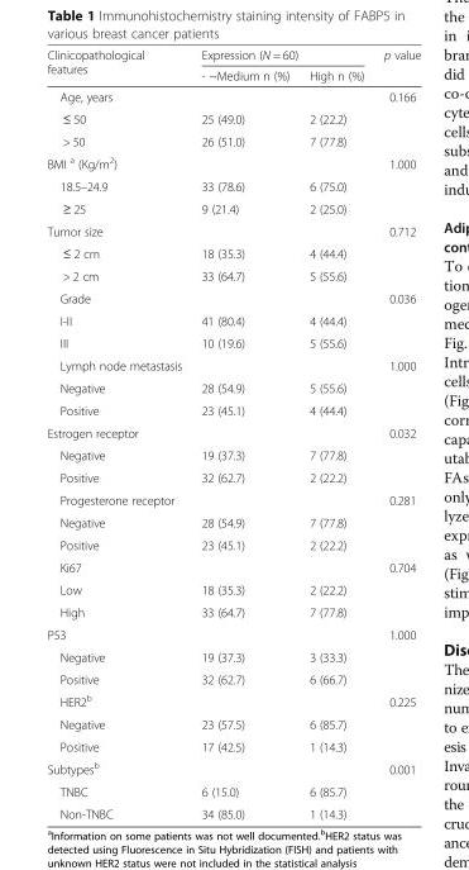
<table><thead><tr><td rowspan="2">Clinicopathological features</td><td colspan="2">Expression (N = 60)</td><td rowspan="2">p value</td></tr><tr><td>- ~Medium n (%)</td><td>High n (%)</td></tr></thead><tbody><tr><td>Age, years</td><td></td><td></td><td>0.166</td></tr><tr><td>≤ 50</td><td>25 (49.0)</td><td>2 (22.2)</td><td></td></tr><tr><td>&gt; 50</td><td>26 (51.0)</td><td>7 (77.8)</td><td></td></tr><tr><td>BMI <sup>a</sup> (Kg/m<sup>2</sup>)</td><td></td><td></td><td>1.000</td></tr><tr><td>18.5–24.9</td><td>33 (78.6)</td><td>6 (75.0)</td><td></td></tr><tr><td>≥ 25</td><td>9 (21.4)</td><td>2 (25.0)</td><td></td></tr><tr><td>Tumor size</td><td></td><td></td><td>0.712</td></tr><tr><td>≤ 2 cm</td><td>18 (35.3)</td><td>4 (44.4)</td><td></td></tr><tr><td>&gt; 2 cm</td><td>33 (64.7)</td><td>5 (55.6)</td><td></td></tr><tr><td>Grade</td><td></td><td></td><td>0.036</td></tr><tr><td>I-II</td><td>41 (80.4)</td><td>4 (44.4)</td><td></td></tr><tr><td>III</td><td>10 (19.6)</td><td>5 (55.6)</td><td></td></tr><tr><td>Lymph node metastasis</td><td></td><td></td><td>1.000</td></tr><tr><td>Negative</td><td>28 (54.9)</td><td>5 (55.6)</td><td></td></tr><tr><td>Positive</td><td>23 (45.1)</td><td>4 (44.4)</td><td></td></tr><tr><td>Estrogen receptor</td><td></td><td></td><td>0.032</td></tr><tr><td>Negative</td><td>19 (37.3)</td><td>7 (77.8)</td><td></td></tr><tr><td>Positive</td><td>32 (62.7)</td><td>2 (22.2)</td><td></td></tr><tr><td>Progesterone receptor</td><td></td><td></td><td>0.281</td></tr><tr><td>Negative</td><td>28 (54.9)</td><td>7 (77.8)</td><td></td></tr><tr><td>Positive</td><td>23 (45.1)</td><td>2 (22.2)</td><td></td></tr><tr><td>Ki67</td><td></td><td></td><td>0.704</td></tr><tr><td>Low</td><td>18 (35.3)</td><td>2 (22.2)</td><td></td></tr><tr><td>High</td><td>33 (64.7)</td><td>7 (77.8)</td><td></td></tr><tr><td>P53</td><td></td><td></td><td>1.000</td></tr><tr><td>Negative</td><td>19 (37.3)</td><td>3 (33.3)</td><td></td></tr><tr><td>Positive</td><td>32 (62.7)</td><td>6 (66.7)</td><td></td></tr><tr><td>HER2<sup>b</sup></td><td></td><td></td><td>0.225</td></tr><tr><td>Negative</td><td>23 (57.5)</td><td>6 (85.7)</td><td></td></tr><tr><td>Positive</td><td>17 (42.5)</td><td>1 (14.3)</td><td></td></tr><tr><td>Subtypes<sup>b</sup></td><td></td><td></td><td>0.001</td></tr><tr><td>TNBC</td><td>6 (15.0)</td><td>6 (85.7)</td><td></td></tr><tr><td>Non-TNBC</td><td>34 (85.0)</td><td>1 (14.3)</td><td></td></tr></tbody></table>